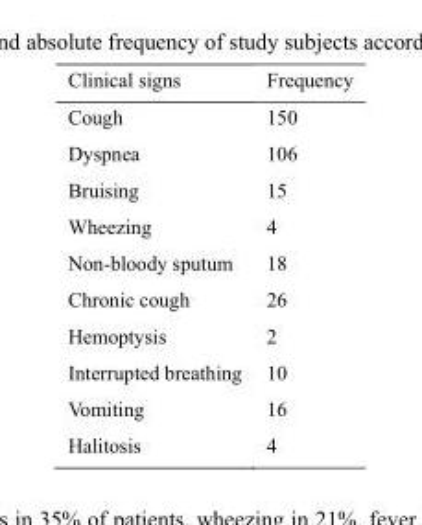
<table><thead><tr><td>Clinical signs</td><td>Frequency</td></tr></thead><tbody><tr><td>Cough</td><td>150</td></tr><tr><td>Dyspnea</td><td>106</td></tr><tr><td>Bruising</td><td>15</td></tr><tr><td>Wheezing</td><td>4</td></tr><tr><td>Non-bloody sputum</td><td>18</td></tr><tr><td>Chronic cough</td><td>26</td></tr><tr><td>Hemoptysis</td><td>2</td></tr><tr><td>Interrupted breathing</td><td>10</td></tr><tr><td>Vomiting</td><td>16</td></tr><tr><td>Halitosis</td><td>4</td></tr></tbody></table>